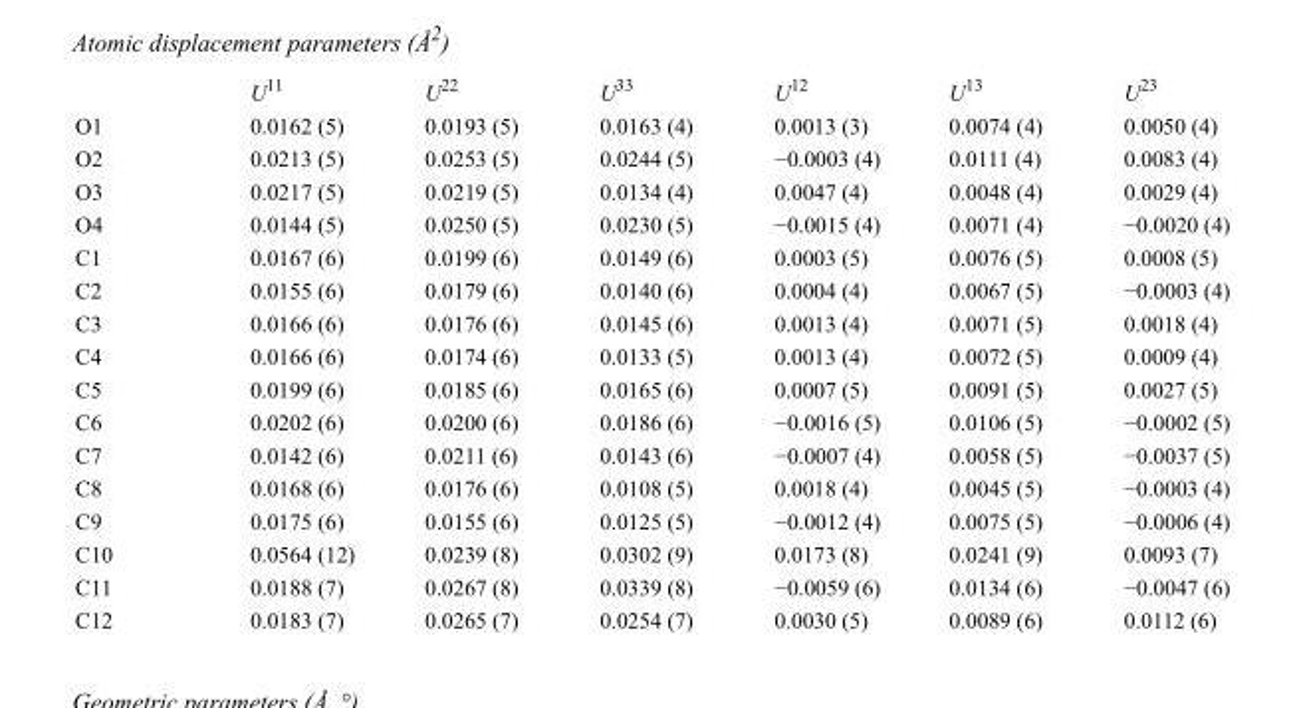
<table><thead><tr><td></td><td>U<sup>11</sup></td><td>U<sup>22</sup></td><td>U<sup>33</sup></td><td>U<sup>12</sup></td><td>U<sup>13</sup></td><td>U<sup>23</sup></td></tr></thead><tbody><tr><td>O1</td><td>0.0162 (5)</td><td>0.0193 (5)</td><td>0.0163 (4)</td><td>0.0013 (3)</td><td>0.0074 (4)</td><td>0.0050 (4)</td></tr><tr><td>O2</td><td>0.0213 (5)</td><td>0.0253 (5)</td><td>0.0244 (5)</td><td>−0.0003 (4)</td><td>0.0111 (4)</td><td>0.0083 (4)</td></tr><tr><td>O3</td><td>0.0217 (5)</td><td>0.0219 (5)</td><td>0.0134 (4)</td><td>0.0047 (4)</td><td>0.0048 (4)</td><td>0.0029 (4)</td></tr><tr><td>O4</td><td>0.0144 (5)</td><td>0.0250 (5)</td><td>0.0230 (5)</td><td>−0.0015 (4)</td><td>0.0071 (4)</td><td>−0.0020 (4)</td></tr><tr><td>C1</td><td>0.0167 (6)</td><td>0.0199 (6)</td><td>0.0149 (6)</td><td>0.0003 (5)</td><td>0.0076 (5)</td><td>0.0008 (5)</td></tr><tr><td>C2</td><td>0.0155 (6)</td><td>0.0179 (6)</td><td>0.0140 (6)</td><td>0.0004 (4)</td><td>0.0067 (5)</td><td>−0.0003 (4)</td></tr><tr><td>C3</td><td>0.0166 (6)</td><td>0.0176 (6)</td><td>0.0145 (6)</td><td>0.0013 (4)</td><td>0.0071 (5)</td><td>0.0018 (4)</td></tr><tr><td>C4</td><td>0.0166 (6)</td><td>0.0174 (6)</td><td>0.0133 (5)</td><td>0.0013 (4)</td><td>0.0072 (5)</td><td>0.0009 (4)</td></tr><tr><td>C5</td><td>0.0199 (6)</td><td>0.0185 (6)</td><td>0.0165 (6)</td><td>0.0007 (5)</td><td>0.0091 (5)</td><td>0.0027 (5)</td></tr><tr><td>C6</td><td>0.0202 (6)</td><td>0.0200 (6)</td><td>0.0186 (6)</td><td>−0.0016 (5)</td><td>0.0106 (5)</td><td>−0.0002 (5)</td></tr><tr><td>C7</td><td>0.0142 (6)</td><td>0.0211 (6)</td><td>0.0143 (6)</td><td>−0.0007 (4)</td><td>0.0058 (5)</td><td>−0.0037 (5)</td></tr><tr><td>C8</td><td>0.0168 (6)</td><td>0.0176 (6)</td><td>0.0108 (5)</td><td>0.0018 (4)</td><td>0.0045 (5)</td><td>−0.0003 (4)</td></tr><tr><td>C9</td><td>0.0175 (6)</td><td>0.0155 (6)</td><td>0.0125 (5)</td><td>−0.0012 (4)</td><td>0.0075 (5)</td><td>−0.0006 (4)</td></tr><tr><td>C10</td><td>0.0564 (12)</td><td>0.0239 (8)</td><td>0.0302 (9)</td><td>0.0173 (8)</td><td>0.0241 (9)</td><td>0.0093 (7)</td></tr><tr><td>C11</td><td>0.0188 (7)</td><td>0.0267 (8)</td><td>0.0339 (8)</td><td>−0.0059 (6)</td><td>0.0134 (6)</td><td>−0.0047 (6)</td></tr><tr><td>C12</td><td>0.0183 (7)</td><td>0.0265 (7)</td><td>0.0254 (7)</td><td>0.0030 (5)</td><td>0.0089 (6)</td><td>0.0112 (6)</td></tr></tbody></table>